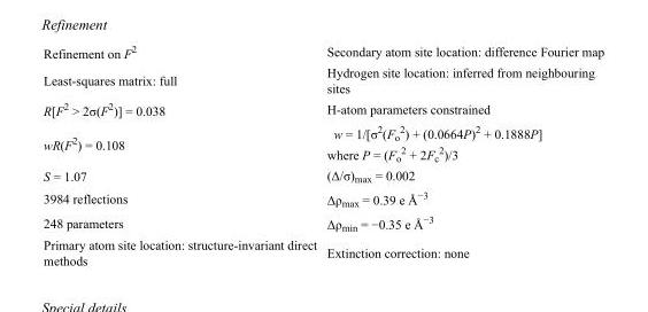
<table><tbody><tr><td>Refinement on F<sup>2</sup></td><td>Secondary atom site location: difference Fourier map</td></tr><tr><td>Least-squares matrix: full</td><td>Hydrogen site location: inferred from neighbouring sites</td></tr><tr><td>R[F<sup>2</sup> &gt; 2σ(F<sup>2</sup>)] = 0.038</td><td>H-atom parameters constrained</td></tr><tr><td>wR(F<sup>2</sup>) = 0.108</td><td>w = 1/[σ<sup>2</sup>(F<sub>o</sub> <sup>2</sup>) + (0.0664P)<sup>2</sup> + 0.1888P] where P = (F<sub>o</sub> <sup>2</sup> + 2F<sub>c</sub> <sup>2</sup>)/3</td></tr><tr><td>S = 1.07</td><td>(Δ/σ)<sub>max</sub> = 0.002</td></tr><tr><td>3984 reflections</td><td>Δρ<sub>max</sub> = 0.39 e Å<sup>−3</sup></td></tr><tr><td>248 parameters</td><td>Δρ<sub>min</sub> = −0.35 e Å<sup>−3</sup></td></tr><tr><td>Primary atom site location: structure-invariant direct methods</td><td>Extinction correction: none</td></tr></tbody></table>